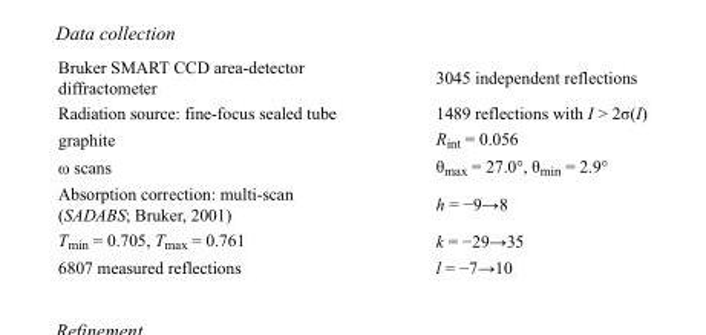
<table><tbody><tr><td>Bruker SMART CCD area-detector diffractometer</td><td>3045 independent reflections</td></tr><tr><td>Radiation source: fine-focus sealed tube</td><td>1489 reflections with I &gt; 2σ(I)</td></tr><tr><td>graphite</td><td>R<sub>int</sub> = 0.056</td></tr><tr><td>ω scans</td><td>θ<sub>max</sub> = 27.0°, θ<sub>min</sub> = 2.9°</td></tr><tr><td>Absorption correction: multi-scan (SADABS; Bruker, 2001)</td><td>h = −9→8</td></tr><tr><td>T<sub>min</sub> = 0.705, T<sub>max</sub> = 0.761</td><td>k = −29→35</td></tr><tr><td>6807 measured reflections</td><td>l = −7→10</td></tr></tbody></table>